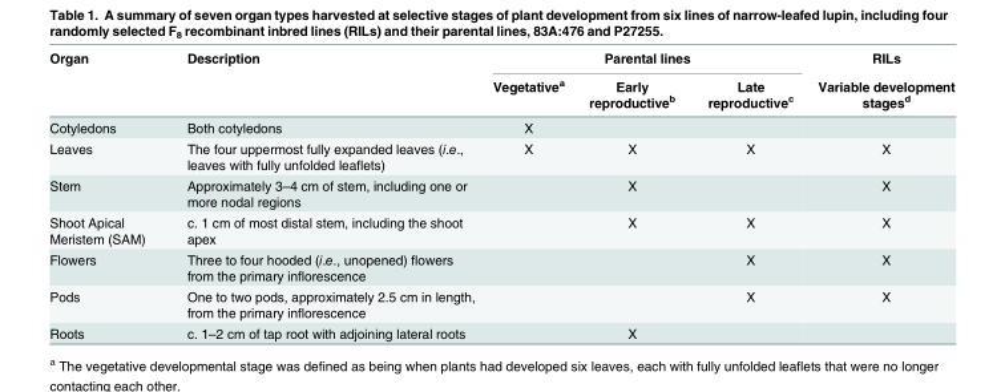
<table><thead><tr><td rowspan="2">Organ</td><td rowspan="2">Description</td><td colspan="3">Parental lines</td><td rowspan="2">RILs Variable development stages<sup>d</sup></td></tr><tr><td>Vegetative<sup>a</sup></td><td>Early reproductive<sup>b</sup></td><td>Late reproductive<sup>c</sup></td></tr></thead><tbody><tr><td>Cotyledons</td><td>Both cotyledons</td><td>X</td><td></td><td></td><td></td></tr><tr><td>Leaves</td><td>The four uppermost fully expanded leaves (i.e., leaves with fully unfolded leaflets)</td><td>X</td><td>X</td><td>X</td><td>X</td></tr><tr><td>Stem</td><td>Approximately 3–4 cm of stem, including one or more nodal regions</td><td></td><td>X</td><td></td><td>X</td></tr><tr><td>Shoot Apical Meristem (SAM)</td><td>c. 1 cm of most distal stem, including the shoot apex</td><td></td><td>X</td><td>X</td><td>X</td></tr><tr><td>Flowers</td><td>Three to four hooded (i.e., unopened) flowers from the primary inflorescence</td><td></td><td></td><td>X</td><td>X</td></tr><tr><td>Pods</td><td>One to two pods, approximately 2.5 cm in length, from the primary inflorescence</td><td></td><td></td><td>X</td><td>X</td></tr><tr><td>Roots</td><td>c. 1–2 cm of tap root with adjoining lateral roots</td><td></td><td>X</td><td></td><td></td></tr></tbody></table>